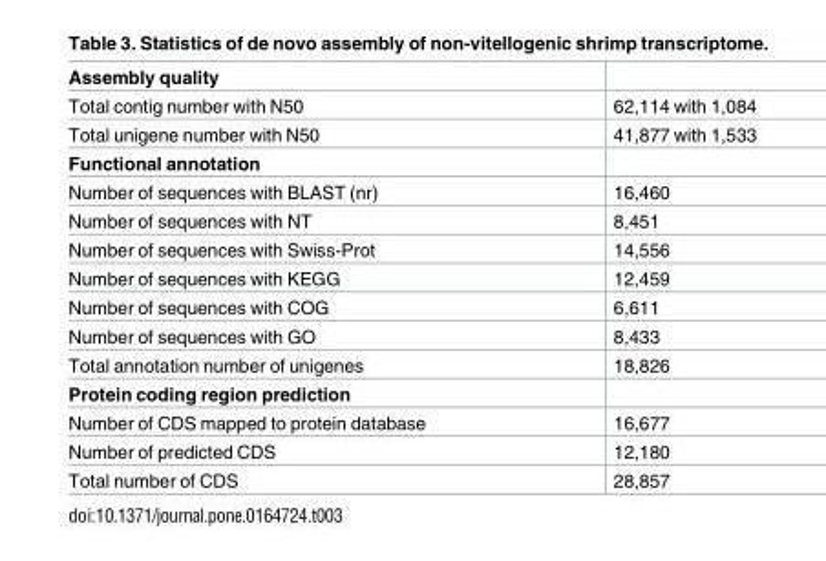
<table><tbody><tr><td colspan="2">Assembly quality</td></tr><tr><td>Total contig number with N50</td><td>62,114 with 1,084</td></tr><tr><td>Total unigene number with N50</td><td>41,877 with 1,533</td></tr><tr><td colspan="2">Functional annotation</td></tr><tr><td>Number of sequences with BLAST (nr)</td><td>16,460</td></tr><tr><td>Number of sequences with NT</td><td>8,451</td></tr><tr><td>Number of sequences with Swiss-Prot</td><td>14,556</td></tr><tr><td>Number of sequences with KEGG</td><td>12,459</td></tr><tr><td>Number of sequences with COG</td><td>6,611</td></tr><tr><td>Number of sequences with GO</td><td>8,433</td></tr><tr><td>Total annotation number of unigenes</td><td>18,826</td></tr><tr><td colspan="2">Protein coding region prediction</td></tr><tr><td>Number of CDS mapped to protein database</td><td>16,677</td></tr><tr><td>Number of predicted CDS</td><td>12,180</td></tr><tr><td>Total number of CDS</td><td>28,857</td></tr></tbody></table>